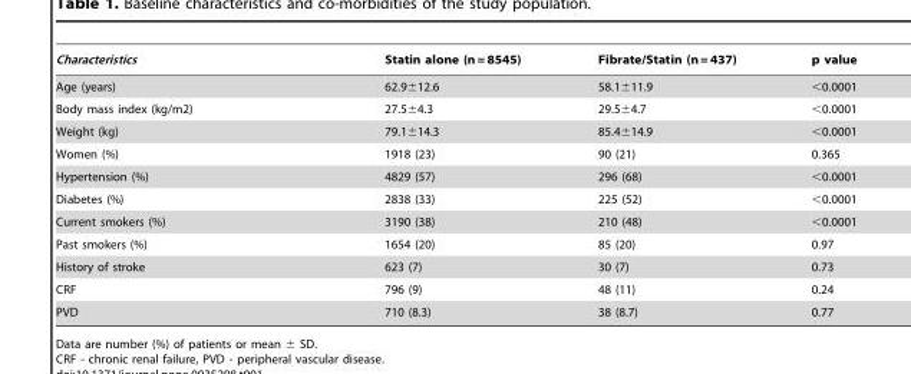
<table><thead><tr><td>Characteristics</td><td>Statin alone (n = 8545)</td><td>Fibrate/Statin (n = 437)</td><td>p value</td></tr></thead><tbody><tr><td>Age (years)</td><td>62.9±12.6</td><td>58.1±11.9</td><td>&lt;0.0001</td></tr><tr><td>Body mass index (kg/m2)</td><td>27.5±4.3</td><td>29.5±4.7</td><td>&lt;0.0001</td></tr><tr><td>Weight (kg)</td><td>79.1±14.3</td><td>85.4±14.9</td><td>&lt;0.0001</td></tr><tr><td>Women (%)</td><td>1918 (23)</td><td>90 (21)</td><td>0.365</td></tr><tr><td>Hypertension (%)</td><td>4829 (57)</td><td>296 (68)</td><td>&lt;0.0001</td></tr><tr><td>Diabetes (%)</td><td>2838 (33)</td><td>225 (52)</td><td>&lt;0.0001</td></tr><tr><td>Current smokers (%)</td><td>3190 (38)</td><td>210 (48)</td><td>&lt;0.0001</td></tr><tr><td>Past smokers (%)</td><td>1654 (20)</td><td>85 (20)</td><td>0.97</td></tr><tr><td>History of stroke</td><td>623 (7)</td><td>30 (7)</td><td>0.73</td></tr><tr><td>CRF</td><td>796 (9)</td><td>48 (11)</td><td>0.24</td></tr><tr><td>PVD</td><td>710 (8.3)</td><td>38 (8.7)</td><td>0.77</td></tr></tbody></table>